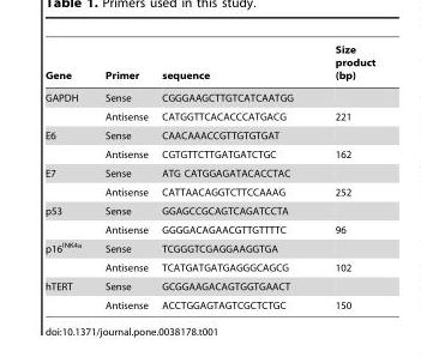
<table><thead><tr><td>Gene</td><td>Primer</td><td>sequence</td><td>Size product (bp)</td></tr></thead><tbody><tr><td rowspan="2">GAPDH</td><td>Sense</td><td>CGGGAAGCTTGTCATCAATGG</td><td></td></tr><tr><td>Antisense</td><td>CATGGTTCACACCCATGACG</td><td>221</td></tr><tr><td rowspan="2">E6</td><td>Sense</td><td>CAACAAACCGTTGTGTGAT</td><td></td></tr><tr><td>Antisense</td><td>CGTGTTCTTGATGATCTGC</td><td>162</td></tr><tr><td rowspan="2">E7</td><td>Sense</td><td>ATG CATGGAGATACACCTAC</td><td></td></tr><tr><td>Antisense</td><td>CATTAACAGGTCTTCCAAAG</td><td>252</td></tr><tr><td rowspan="2">p53</td><td>Sense</td><td>GGAGCCGCAGTCAGATCCTA</td><td></td></tr><tr><td>Antisense</td><td>GGGGACAGAACGTTGTTTTC</td><td>96</td></tr><tr><td rowspan="2">p16<sup>INK4a</sup></td><td>Sense</td><td>TCGGGTCGAGGAAGGTGA</td><td></td></tr><tr><td>Antisense</td><td>TCATGATGATGAGGGCAGCG</td><td>102</td></tr><tr><td rowspan="2">hTERT</td><td>Sense</td><td>GCGGAAGACAGTGGTGAACT</td><td></td></tr><tr><td>Antisense</td><td>ACCTGGAGTAGTCGCTCTGC</td><td>150</td></tr></tbody></table>